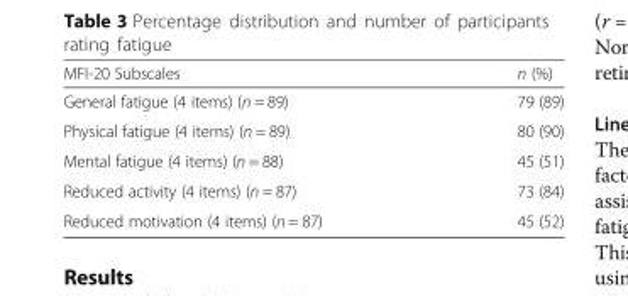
<table><thead><tr><td>MFI-20 Subscales</td><td>n (%)</td></tr></thead><tbody><tr><td>General fatigue (4 items) (n = 89)</td><td>79 (89)</td></tr><tr><td>Physical fatigue (4 items) (n = 89)</td><td>80 (90)</td></tr><tr><td>Mental fatigue (4 items) (n = 88)</td><td>45 (51)</td></tr><tr><td>Reduced activity (4 items) (n = 87)</td><td>73 (84)</td></tr><tr><td>Reduced motivation (4 items) (n = 87)</td><td>45 (52)</td></tr></tbody></table>